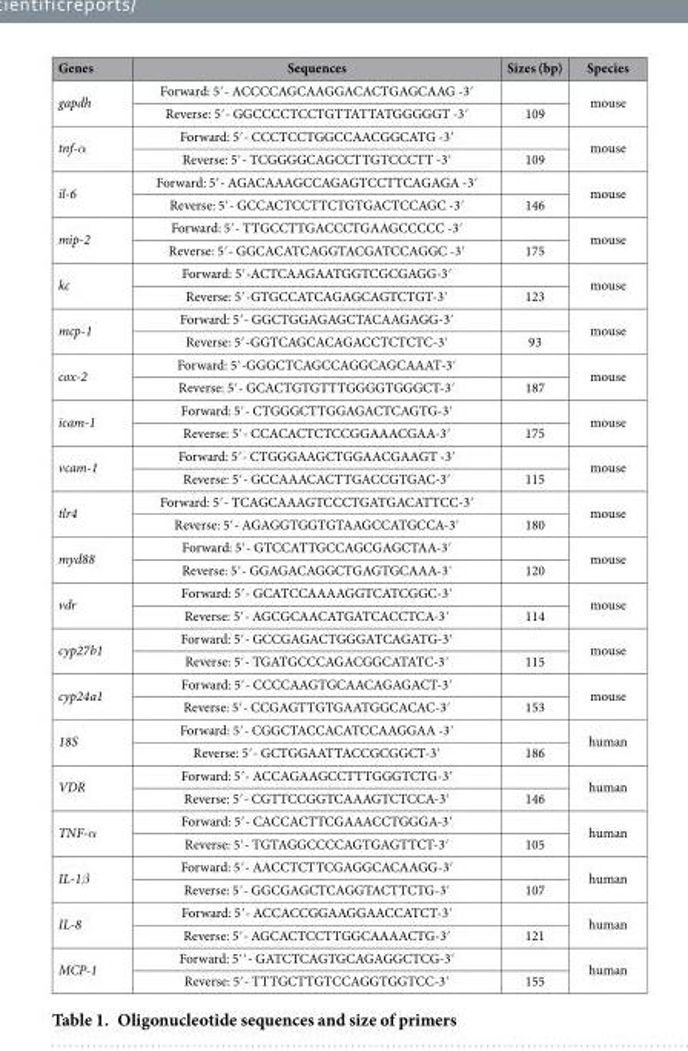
<table><thead><tr><td>Genes</td><td>Sequences</td><td>Sizes (bp)</td><td>Species</td></tr></thead><tbody><tr><td rowspan="2">gapdh</td><td>Forward: 5′ - ACCCCAGCAAGGACACTGAGCAAG -3′</td><td></td><td rowspan="2">mouse</td></tr><tr><td>Reverse: 5′ - GGCCCCTCCTGTTATTATGGGGGT -3′</td><td>109</td></tr><tr><td rowspan="2">tnf-α</td><td>Forward: 5′ - CCCTCCTGGCCAACGGCATG -3′</td><td></td><td rowspan="2">mouse</td></tr><tr><td>Reverse: 5′ - TCGGGGCAGCCTTGTCCCTT -3′</td><td>109</td></tr><tr><td rowspan="2">il-6</td><td>Forward: 5′ - AGACAAAGCCAGAGTCCTTCAGAGA -3′</td><td></td><td rowspan="2">mouse</td></tr><tr><td>Reverse: 5′ - GCCACTCCTTCTGTGACTCCAGC -3′</td><td>146</td></tr><tr><td rowspan="2">mip-2</td><td>Forward: 5′ - TTGCCTTGACCCTGAAGCCCCC -3′</td><td></td><td rowspan="2">mouse</td></tr><tr><td>Reverse: 5′ - GGCACATCAGGTACGATCCAGGC -3′</td><td>175</td></tr><tr><td rowspan="2">kc</td><td>Forward: 5′ -ACTCAAGAATGGTCGCGAGG-3′</td><td></td><td rowspan="2">mouse</td></tr><tr><td>Reverse: 5′ -GTGCCATCAGAGCAGTCTGT-3′</td><td>123</td></tr><tr><td rowspan="2">mcp-1</td><td>Forward: 5′ - GGCTGGAGAGCTACAAGAGG-3′</td><td></td><td rowspan="2">mouse</td></tr><tr><td>Reverse: 5′ -GGTCAGCACAGACCTCTCTC-3′</td><td>93</td></tr><tr><td rowspan="2">cox-2</td><td>Forward: 5′ -GGGCTCAGCCAGGCAGCAAAT-3′</td><td></td><td rowspan="2">mouse</td></tr><tr><td>Reverse: 5′ - GCACTGTGTTTGGGGTGGGCT-3′</td><td>187</td></tr><tr><td rowspan="2">icam-1</td><td>Forward: 5′ - CTGGGCTTGGAGACTCAGTG-3′</td><td></td><td rowspan="2">mouse</td></tr><tr><td>Reverse: 5′ - CCACACTCTCCGGAAACGAA-3′</td><td>175</td></tr><tr><td rowspan="2">vcam-1</td><td>Forward: 5′ - CTGGGAAGCTGGAACGAAGT -3′</td><td></td><td rowspan="2">mouse</td></tr><tr><td>Reverse: 5′ - GCCAAACACTTGACCGTGAC-3′</td><td>115</td></tr><tr><td rowspan="2">tlr4</td><td>Forward: 5′ - TCAGCAAAGTCCCTGATGACATTCC-3′</td><td></td><td rowspan="2">mouse</td></tr><tr><td>Reverse: 5′ - AGAGGTGGTGTAAGCCATGCCA-3′</td><td>180</td></tr><tr><td rowspan="2">myd88</td><td>Forward: 5′ - GTCCATTGCCAGCGAGCTAA-3′</td><td></td><td rowspan="2">mouse</td></tr><tr><td>Reverse: 5′ - GGAGACAGGCTGAGTGCAAA-3′</td><td>120</td></tr><tr><td rowspan="2">vdr</td><td>Forward: 5′ - GCATCCAAAAGGTCATCGGC-3′</td><td></td><td rowspan="2">mouse</td></tr><tr><td>Reverse: 5′ - AGCGCAACATGATCACCTCA-3′</td><td>114</td></tr><tr><td rowspan="2">cyp27b1</td><td>Forward: 5′ - GCCGAGACTGGGATCAGATG-3′</td><td></td><td rowspan="2">mouse</td></tr><tr><td>Reverse: 5′ - TGATGCCCAGACGGCATATC-3′</td><td>115</td></tr><tr><td rowspan="2">cyp24a1</td><td>Forward: 5′ - CCCCAAGTGCAACAGAGACT-3′</td><td></td><td rowspan="2">mouse</td></tr><tr><td>Reverse: 5′ - CCGAGTTGTGAATGGCACAC-3′</td><td>153</td></tr><tr><td rowspan="2">18S</td><td>Forward: 5′ - CGGCTACCACATCCAAGGAA -3′</td><td></td><td rowspan="2">human</td></tr><tr><td>Reverse: 5′ - GCTGGAATTACCGCGGCT-3′</td><td>186</td></tr><tr><td rowspan="2">VDR</td><td>Forward: 5′ - ACCAGAAGCCTTTGGGTCTG-3′</td><td></td><td rowspan="2">human</td></tr><tr><td>Reverse: 5′ - CGTTCCGGTCAAAGTCTCCA-3′</td><td>146</td></tr><tr><td rowspan="2">TNF-α</td><td>Forward: 5′ - CACCACTTCGAAACCTGGGA-3′</td><td></td><td rowspan="2">human</td></tr><tr><td>Reverse: 5′ - TGTAGGCCCCAGTGAGTTCT-3′</td><td>105</td></tr><tr><td rowspan="2">IL-1β</td><td>Forward: 5′ - AACCTCTTCGAGGCACAAGG-3′</td><td></td><td rowspan="2">human</td></tr><tr><td>Reverse: 5′ - GGCGAGCTCAGGTACTTCTG-3′</td><td>107</td></tr><tr><td rowspan="2">IL-8</td><td>Forward: 5′ - ACCACCGGAAGGAACCATCT-3′</td><td></td><td rowspan="2">human</td></tr><tr><td>Reverse: 5′ - AGCACTCCTTGGCAAAACTG-3′</td><td>121</td></tr><tr><td rowspan="2">MCP-1</td><td>Forward: 5′ ′ - GATCTCAGTGCAGAGGCTCG-3′</td><td></td><td rowspan="2">human</td></tr><tr><td>Reverse: 5′ - TTTGCTTGTCCAGGTGGTCC-3′</td><td>155</td></tr></tbody></table>